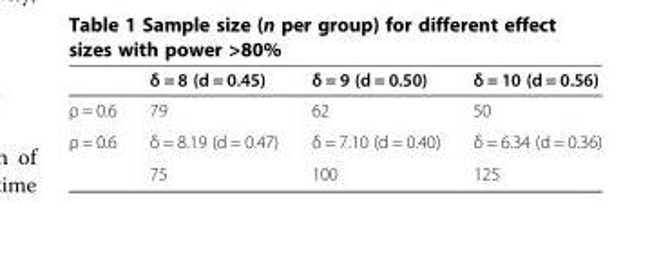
<table><thead><tr><td></td><td>δ = 8 (d = 0.45)</td><td>δ = 9 (d = 0.50)</td><td>δ = 10 (d = 0.56)</td></tr></thead><tbody><tr><td>ρ = 0.6</td><td>79</td><td>62</td><td>50</td></tr><tr><td rowspan="2">ρ = 0.6</td><td>δ = 8.19 (d = 0.47)</td><td>δ = 7.10 (d = 0.40)</td><td>δ = 6.34 (d = 0.36)</td></tr><tr><td>75</td><td>100</td><td>125</td></tr></tbody></table>